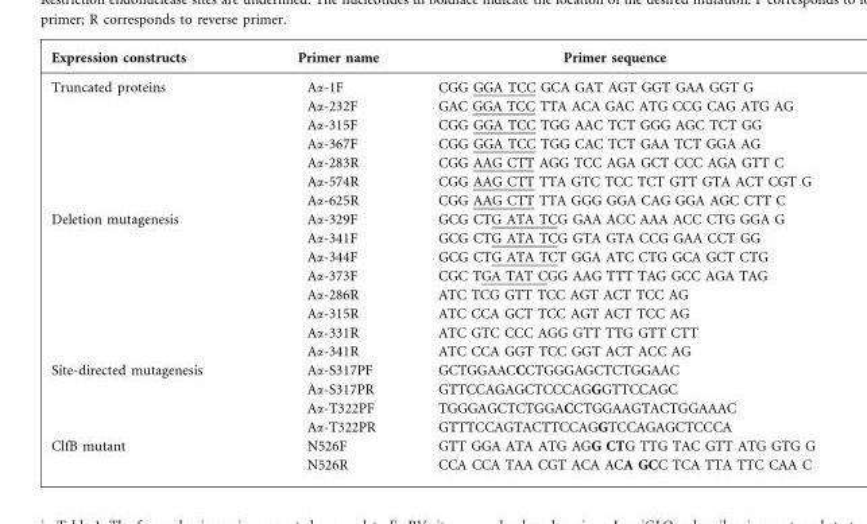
<table><thead><tr><td>Expression constructs</td><td>Primer name</td><td>Primer sequence</td></tr></thead><tbody><tr><td rowspan="7">Truncated proteins</td><td>Aα-1F</td><td>CGG GGA TCC GCA GAT AGT GGT GAA GGT G</td></tr><tr><td>Aα-232F</td><td>GAC GGA TCC TTA ACA GAC ATG CCG CAG ATG AG</td></tr><tr><td>Aα-315F</td><td>CGG GGA TCC TGG AAC TCT GGG AGC TCT GG</td></tr><tr><td>Aα-367F</td><td>CGG GGA TCC TGG CAC TCT GAA TCT GGA AG</td></tr><tr><td>Aα-283R</td><td>CGG AAG CTT AGG TCC AGA GCT CCC AGA GTT C</td></tr><tr><td>Aα-574R</td><td>CGG AAG CTT TTA GTC TCC TCT GTT GTA ACT CGT G</td></tr><tr><td>Aα-625R</td><td>CGG AAG CTT TTA GGG GGA CAG GGA AGC CTT C</td></tr><tr><td rowspan="8">Deletion mutagenesis</td><td>Aα-329F</td><td>GCG CTG ATA TCG GAA ACC AAA ACC CTG GGA G</td></tr><tr><td>Aα-341F</td><td>GCG CTG ATA TCG GTA GTA CCG GAA CCT GG</td></tr><tr><td>Aα-344F</td><td>GCG CTG ATA TCT GGA ATC CTG GCA GCT CTG</td></tr><tr><td>Aα-373F</td><td>CGC TGA TAT CGG AAG TTT TAG GCC AGA TAG</td></tr><tr><td>Aα-286R</td><td>ATC TCG GTT TCC AGT ACT TCC AG</td></tr><tr><td>Aα-315R</td><td>ATC CCA GCT TCC AGT ACT TCC AG</td></tr><tr><td>Aα-331R</td><td>ATC GTC CCC AGG GTT TTG GTT CTT</td></tr><tr><td>Aα-341R</td><td>ATC CCA GGT TCC GGT ACT ACC AG</td></tr><tr><td rowspan="4">Site-directed mutagenesis</td><td>Aα-S317PF</td><td>GCTGGAACCCTGGGAGCTCTGGAAC</td></tr><tr><td>Aα-S317PR</td><td>GTTCCAGAGCTCCCAGGGTTCCAGC</td></tr><tr><td>Aα-T322PF</td><td>TGGGAGCTCTGGACCTGGAAGTACTGGAAAC</td></tr><tr><td>Aα-T322PR</td><td>GTTTCCAGTACTTCCAGGTCCAGAGCTCCCA</td></tr><tr><td rowspan="2">ClfB mutant</td><td>N526F</td><td>GTT GGA ATA ATG AGG CTG TTG TAC GTT ATG GTG G</td></tr><tr><td>N526R</td><td>CCA CCA TAA CGT ACA ACA GCC TCA TTA TTC CAA C</td></tr></tbody></table>